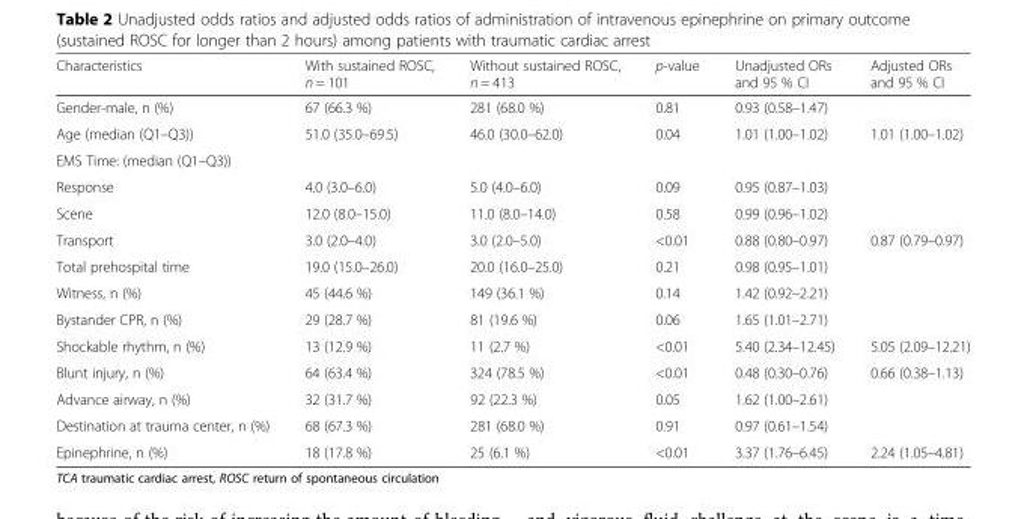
<table><thead><tr><td>Characteristics</td><td>With sustained ROSC, n = 101</td><td>Without sustained ROSC, n = 413</td><td>p-value</td><td>Unadjusted ORs and 95 % CI</td><td>Adjusted ORs and 95 % CI</td></tr></thead><tbody><tr><td>Gender-male, n (%)</td><td>67 (66.3 %)</td><td>281 (68.0 %)</td><td>0.81</td><td>0.93 (0.58–1.47)</td><td></td></tr><tr><td>Age (median (Q1–Q3))</td><td>51.0 (35.0–69.5)</td><td>46.0 (30.0–62.0)</td><td>0.04</td><td>1.01 (1.00–1.02)</td><td>1.01 (1.00–1.02)</td></tr><tr><td colspan="6">EMS Time: (median (Q1–Q3))</td></tr><tr><td>Response</td><td>4.0 (3.0–6.0)</td><td>5.0 (4.0–6.0)</td><td>0.09</td><td>0.95 (0.87–1.03)</td><td></td></tr><tr><td>Scene</td><td>12.0 (8.0–15.0)</td><td>11.0 (8.0–14.0)</td><td>0.58</td><td>0.99 (0.96–1.02)</td><td></td></tr><tr><td>Transport</td><td>3.0 (2.0–4.0)</td><td>3.0 (2.0–5.0)</td><td>&lt;0.01</td><td>0.88 (0.80–0.97)</td><td>0.87 (0.79–0.97)</td></tr><tr><td>Total prehospital time</td><td>19.0 (15.0–26.0)</td><td>20.0 (16.0–25.0)</td><td>0.21</td><td>0.98 (0.95–1.01)</td><td></td></tr><tr><td>Witness, n (%)</td><td>45 (44.6 %)</td><td>149 (36.1 %)</td><td>0.14</td><td>1.42 (0.92–2.21)</td><td></td></tr><tr><td>Bystander CPR, n (%)</td><td>29 (28.7 %)</td><td>81 (19.6 %)</td><td>0.06</td><td>1.65 (1.01–2.71)</td><td></td></tr><tr><td>Shockable rhythm, n (%)</td><td>13 (12.9 %)</td><td>11 (2.7 %)</td><td>&lt;0.01</td><td>5.40 (2.34–12.45)</td><td>5.05 (2.09–12.21)</td></tr><tr><td>Blunt injury, n (%)</td><td>64 (63.4 %)</td><td>324 (78.5 %)</td><td>&lt;0.01</td><td>0.48 (0.30–0.76)</td><td>0.66 (0.38–1.13)</td></tr><tr><td>Advance airway, n (%)</td><td>32 (31.7 %)</td><td>92 (22.3 %)</td><td>0.05</td><td>1.62 (1.00–2.61)</td><td></td></tr><tr><td>Destination at trauma center, n (%)</td><td>68 (67.3 %)</td><td>281 (68.0 %)</td><td>0.91</td><td>0.97 (0.61–1.54)</td><td></td></tr><tr><td>Epinephrine, n (%)</td><td>18 (17.8 %)</td><td>25 (6.1 %)</td><td>&lt;0.01</td><td>3.37 (1.76–6.45)</td><td>2.24 (1.05–4.81)</td></tr></tbody></table>